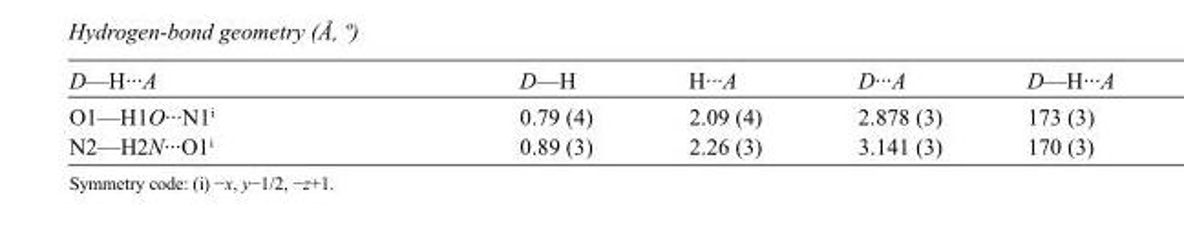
<table><tbody><tr><td>D—H···A</td><td>D—H</td><td>H···A</td><td>D···A</td><td>D—H···A</td></tr><tr><td>O1—H1O···N1<sup>i</sup></td><td>0.79 (4)</td><td>2.09 (4)</td><td>2.878 (3)</td><td>173 (3)</td></tr><tr><td>N2—H2N···O1<sup>i</sup></td><td>0.89 (3)</td><td>2.26 (3)</td><td>3.141 (3)</td><td>170 (3)</td></tr></tbody></table>